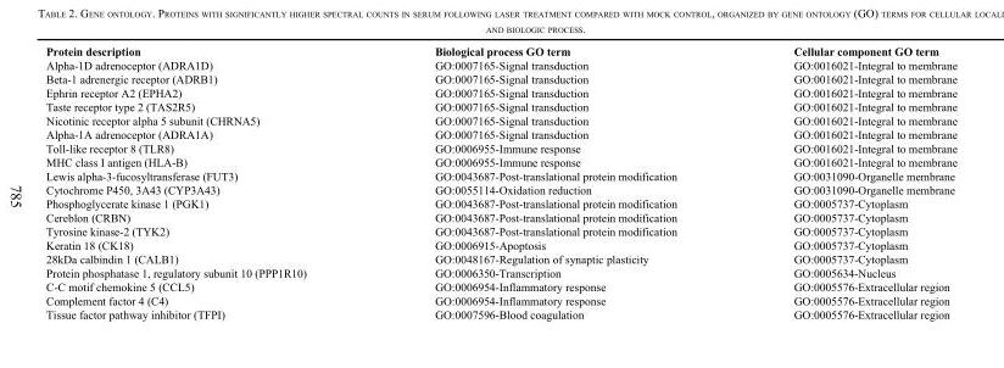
<table><thead><tr><td>Protein description</td><td>Biological process GO term</td><td>Cellular component GO term</td></tr></thead><tbody><tr><td>Alpha-1D adrenoceptor (ADRA1D)</td><td>GO:0007165-Signal transduction</td><td>GO:0016021-Integral to membrane</td></tr><tr><td>Beta-1 adrenergic receptor (ADRB1)</td><td>GO:0007165-Signal transduction</td><td>GO:0016021-Integral to membrane</td></tr><tr><td>Ephrin receptor A2 (EPHA2)</td><td>GO:0007165-Signal transduction</td><td>GO:0016021-Integral to membrane</td></tr><tr><td>Taste receptor type 2 (TAS2R5)</td><td>GO:0007165-Signal transduction</td><td>GO:0016021-Integral to membrane</td></tr><tr><td>Nicotinic receptor alpha 5 subunit (CHRNA5)</td><td>GO:0007165-Signal transduction</td><td>GO:0016021-Integral to membrane</td></tr><tr><td>Alpha-1A adrenoceptor (ADRA1A)</td><td>GO:0007165-Signal transduction</td><td>GO:0016021-Integral to membrane</td></tr><tr><td>Toll-like receptor 8 (TLR8)</td><td>GO:0006955-Immune response</td><td>GO:0016021-Integral to membrane</td></tr><tr><td>MHC class I antigen (HLA-B)</td><td>GO:0006955-Immune response</td><td>GO:0016021-Integral to membrane</td></tr><tr><td>Lewis alpha-3-fucosyltransferase (FUT3)</td><td>GO:0043687-Post-translational protein modification</td><td>GO:0031090-Organelle membrane</td></tr><tr><td>Cytochrome P450, 3A43 (CYP3A43)</td><td>GO:0055114-Oxidation reduction</td><td>GO:0031090-Organelle membrane</td></tr><tr><td>Phosphoglycerate kinase 1 (PGK1)</td><td>GO:0043687-Post-translational protein modification</td><td>GO:0005737-Cytoplasm</td></tr><tr><td>Cereblon (CRBN)</td><td>GO:0043687-Post-translational protein modification</td><td>GO:0005737-Cytoplasm</td></tr><tr><td>Tyrosine kinase-2 (TYK2)</td><td>GO:0043687-Post-translational protein modification</td><td>GO:0005737-Cytoplasm</td></tr><tr><td>Keratin 18 (CK18)</td><td>GO:0006915-Apoptosis</td><td>GO:0005737-Cytoplasm</td></tr><tr><td>28kDa calbindin 1 (CALB1)</td><td>GO:0048167-Regulation of synaptic plasticity</td><td>GO:0005737-Cytoplasm</td></tr><tr><td>Protein phosphatase 1, regulatory subunit 10 (PPP1R10)</td><td>GO:0006350-Transcription</td><td>GO:0005634-Nucleus</td></tr><tr><td>C-C motif chemokine 5 (CCL5)</td><td>GO:0006954-Inflammatory response</td><td>GO:0005576-Extracellular region</td></tr><tr><td>Complement factor 4 (C4)</td><td>GO:0006954-Inflammatory response</td><td>GO:0005576-Extracellular region</td></tr><tr><td>Tissue factor pathway inhibitor (TFPI)</td><td>GO:0007596-Blood coagulation</td><td>GO:0005576-Extracellular region</td></tr></tbody></table>